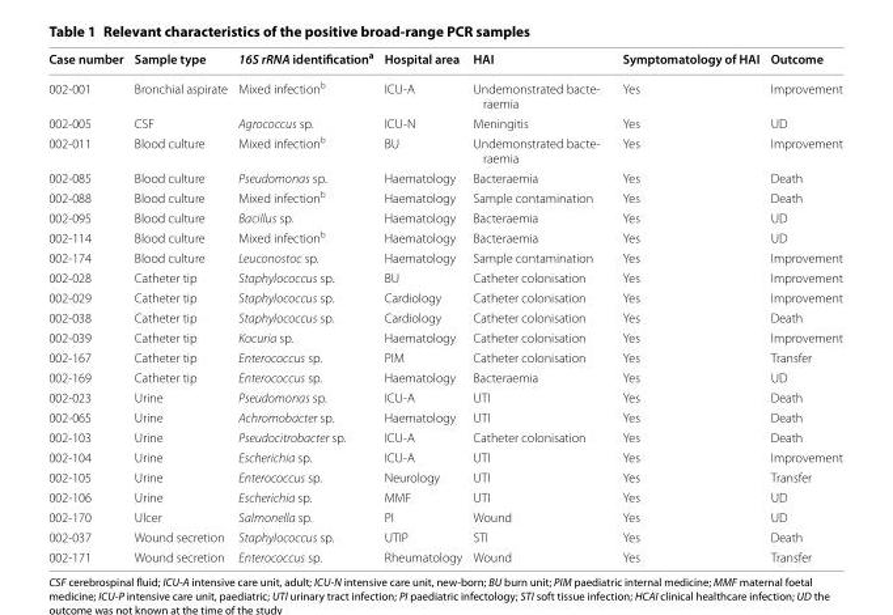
<table><thead><tr><td>Case number</td><td>Sample type</td><td>16S rRNA identification<sup>a</sup></td><td>Hospital area</td><td>HAI</td><td>Symptomatology of HAI</td><td>Outcome</td></tr></thead><tbody><tr><td>002‑001</td><td>Bronchial aspirate</td><td>Mixed infection<sup>b</sup></td><td>ICU‑A</td><td>Undemonstrated bacte‑ raemia</td><td>Yes</td><td>Improvement</td></tr><tr><td>002‑005</td><td>CSF</td><td>Agrococcus sp.</td><td>ICU‑N</td><td>Meningitis</td><td>Yes</td><td>UD</td></tr><tr><td>002‑011</td><td>Blood culture</td><td>Mixed infection<sup>b</sup></td><td>BU</td><td>Undemonstrated bacte‑ raemia</td><td>Yes</td><td>Improvement</td></tr><tr><td>002‑085</td><td>Blood culture</td><td>Pseudomonas sp.</td><td>Haematology</td><td>Bacteraemia</td><td>Yes</td><td>Death</td></tr><tr><td>002‑088</td><td>Blood culture</td><td>Mixed infection<sup>b</sup></td><td>Haematology</td><td>Sample contamination</td><td>Yes</td><td>Death</td></tr><tr><td>002‑095</td><td>Blood culture</td><td>Bacillus sp.</td><td>Haematology</td><td>Bacteraemia</td><td>Yes</td><td>UD</td></tr><tr><td>002‑114</td><td>Blood culture</td><td>Mixed infection<sup>b</sup></td><td>Haematology</td><td>Bacteraemia</td><td>Yes</td><td>UD</td></tr><tr><td>002‑174</td><td>Blood culture</td><td>Leuconostoc sp.</td><td>Haematology</td><td>Sample contamination</td><td>Yes</td><td>Improvement</td></tr><tr><td>002‑028</td><td>Catheter tip</td><td>Staphylococcus sp.</td><td>BU</td><td>Catheter colonisation</td><td>Yes</td><td>Improvement</td></tr><tr><td>002‑029</td><td>Catheter tip</td><td>Staphylococcus sp.</td><td>Cardiology</td><td>Catheter colonisation</td><td>Yes</td><td>Improvement</td></tr><tr><td>002‑038</td><td>Catheter tip</td><td>Staphylococcus sp.</td><td>Cardiology</td><td>Catheter colonisation</td><td>Yes</td><td>Death</td></tr><tr><td>002‑039</td><td>Catheter tip</td><td>Kocuria sp.</td><td>Haematology</td><td>Catheter colonisation</td><td>Yes</td><td>Improvement</td></tr><tr><td>002‑167</td><td>Catheter tip</td><td>Enterococcus sp.</td><td>PIM</td><td>Catheter colonisation</td><td>Yes</td><td>Transfer</td></tr><tr><td>002‑169</td><td>Catheter tip</td><td>Enterococcus sp.</td><td>Haematology</td><td>Bacteraemia</td><td>Yes</td><td>UD</td></tr><tr><td>002‑023</td><td>Urine</td><td>Pseudomonas sp.</td><td>ICU‑A</td><td>UTI</td><td>Yes</td><td>Death</td></tr><tr><td>002‑065</td><td>Urine</td><td>Achromobacter sp.</td><td>Haematology</td><td>UTI</td><td>Yes</td><td>Death</td></tr><tr><td>002‑103</td><td>Urine</td><td>Pseudocitrobacter sp.</td><td>ICU‑A</td><td>Catheter colonisation</td><td>Yes</td><td>Death</td></tr><tr><td>002‑104</td><td>Urine</td><td>Escherichia sp.</td><td>ICU‑A</td><td>UTI</td><td>Yes</td><td>Improvement</td></tr><tr><td>002‑105</td><td>Urine</td><td>Enterococcus sp.</td><td>Neurology</td><td>UTI</td><td>Yes</td><td>Transfer</td></tr><tr><td>002‑106</td><td>Urine</td><td>Escherichia sp.</td><td>MMF</td><td>UTI</td><td>Yes</td><td>UD</td></tr><tr><td>002‑170</td><td>Ulcer</td><td>Salmonella sp.</td><td>PI</td><td>Wound</td><td>Yes</td><td>UD</td></tr><tr><td>002‑037</td><td>Wound secretion</td><td>Staphylococcus sp.</td><td>UTIP</td><td>STI</td><td>Yes</td><td>Death</td></tr><tr><td>002‑171</td><td>Wound secretion</td><td>Enterococcus sp.</td><td>Rheumatology</td><td>Wound</td><td>Yes</td><td>Transfer</td></tr></tbody></table>